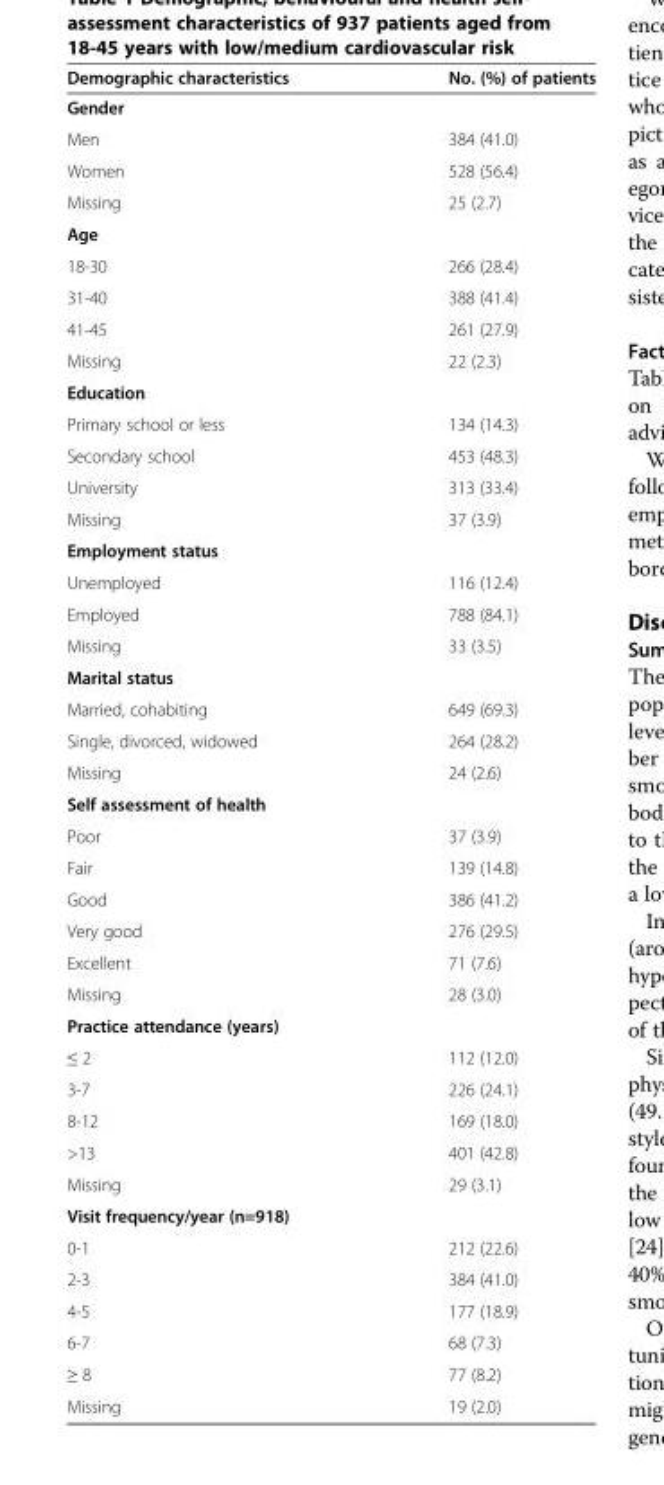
<table><thead><tr><td>Demographic characteristics</td><td>No. (%) of patients</td></tr></thead><tbody><tr><td colspan="2">Gender</td></tr><tr><td>Men</td><td>384 (41.0)</td></tr><tr><td>Women</td><td>528 (56.4)</td></tr><tr><td>Missing</td><td>25 (2.7)</td></tr><tr><td colspan="2">Age</td></tr><tr><td>18-30</td><td>266 (28.4)</td></tr><tr><td>31-40</td><td>388 (41.4)</td></tr><tr><td>41-45</td><td>261 (27.9)</td></tr><tr><td>Missing</td><td>22 (2.3)</td></tr><tr><td colspan="2">Education</td></tr><tr><td>Primary school or less</td><td>134 (14.3)</td></tr><tr><td>Secondary school</td><td>453 (48.3)</td></tr><tr><td>University</td><td>313 (33.4)</td></tr><tr><td>Missing</td><td>37 (3.9)</td></tr><tr><td colspan="2">Employment status</td></tr><tr><td>Unemployed</td><td>116 (12.4)</td></tr><tr><td>Employed</td><td>788 (84.1)</td></tr><tr><td>Missing</td><td>33 (3.5)</td></tr><tr><td colspan="2">Marital status</td></tr><tr><td>Married, cohabiting</td><td>649 (69.3)</td></tr><tr><td>Single, divorced, widowed</td><td>264 (28.2)</td></tr><tr><td>Missing</td><td>24 (2.6)</td></tr><tr><td colspan="2">Self assessment of health</td></tr><tr><td>Poor</td><td>37 (3.9)</td></tr><tr><td>Fair</td><td>139 (14.8)</td></tr><tr><td>Good</td><td>386 (41.2)</td></tr><tr><td>Very good</td><td>276 (29.5)</td></tr><tr><td>Excellent</td><td>71 (7.6)</td></tr><tr><td>Missing</td><td>28 (3.0)</td></tr><tr><td colspan="2">Practice attendance (years)</td></tr><tr><td>≤ 2</td><td>112 (12.0)</td></tr><tr><td>3-7</td><td>226 (24.1)</td></tr><tr><td>8-12</td><td>169 (18.0)</td></tr><tr><td>&gt;13</td><td>401 (42.8)</td></tr><tr><td>Missing</td><td>29 (3.1)</td></tr><tr><td colspan="2">Visit frequency/year (n=918)</td></tr><tr><td>0-1</td><td>212 (22.6)</td></tr><tr><td>2-3</td><td>384 (41.0)</td></tr><tr><td>4-5</td><td>177 (18.9)</td></tr><tr><td>6-7</td><td>68 (7.3)</td></tr><tr><td>≥ 8</td><td>77 (8.2)</td></tr><tr><td>Missing</td><td>19 (2.0)</td></tr></tbody></table>